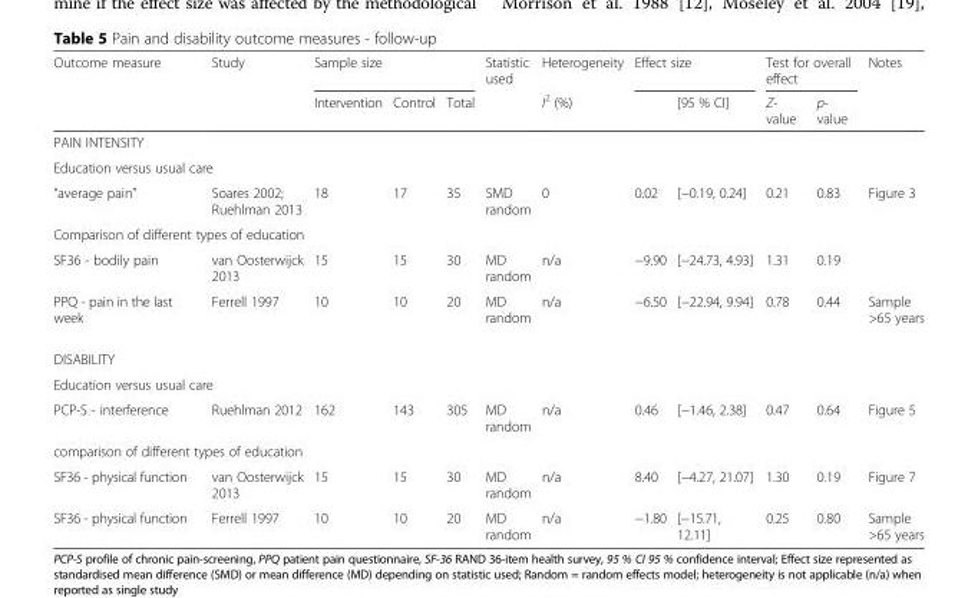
<table><thead><tr><td rowspan="2">Outcome measure</td><td rowspan="2">Study</td><td colspan="3">Sample size</td><td rowspan="2">Statistic used</td><td rowspan="2">Heterogeneity I<sup>2</sup> (%)</td><td colspan="2">Effect size</td><td colspan="2">Test for overall effect</td><td rowspan="2">Notes</td></tr><tr><td>Intervention</td><td>Control</td><td>Total</td><td></td><td>[95 % CI]</td><td>Z- value</td><td>p- value</td></tr></thead><tbody><tr><td colspan="12">PAIN INTENSITY</td></tr><tr><td colspan="12">Education versus usual care</td></tr><tr><td>“average pain”</td><td>Soares 2002; Ruehlman 2013</td><td>18</td><td>17</td><td>35</td><td>SMD random</td><td>0</td><td>0.02</td><td>[−0.19, 0.24]</td><td>0.21</td><td>0.83</td><td>Figure 3</td></tr><tr><td colspan="12">Comparison of different types of education</td></tr><tr><td>SF36 - bodily pain</td><td>van Oosterwijck 2013</td><td>15</td><td>15</td><td>30</td><td>MD random</td><td>n/a</td><td>−9.90</td><td>[−24.73, 4.93]</td><td>1.31</td><td>0.19</td><td></td></tr><tr><td>PPQ - pain in the last week</td><td>Ferrell 1997</td><td>10</td><td>10</td><td>20</td><td>MD random</td><td>n/a</td><td>−6.50</td><td>[−22.94, 9.94]</td><td>0.78</td><td>0.44</td><td>Sample &gt;65 years</td></tr><tr><td colspan="12">DISABILITY</td></tr><tr><td colspan="12">Education versus usual care</td></tr><tr><td>PCP-S - interference</td><td>Ruehlman 2012</td><td>162</td><td>143</td><td>305</td><td>MD random</td><td>n/a</td><td>0.46</td><td>[−1.46, 2.38]</td><td>0.47</td><td>0.64</td><td>Figure 5</td></tr><tr><td colspan="12">comparison of different types of education</td></tr><tr><td>SF36 - physical function</td><td>van Oosterwijck 2013</td><td>15</td><td>15</td><td>30</td><td>MD random</td><td>n/a</td><td>8.40</td><td>[−4.27, 21.07]</td><td>1.30</td><td>0.19</td><td>Figure 7</td></tr><tr><td>SF36 - physical function</td><td>Ferrell 1997</td><td>10</td><td>10</td><td>20</td><td>MD random</td><td>n/a</td><td>−1.80</td><td>[−15.71, 12.11]</td><td>0.25</td><td>0.80</td><td>Sample &gt;65 years</td></tr></tbody></table>